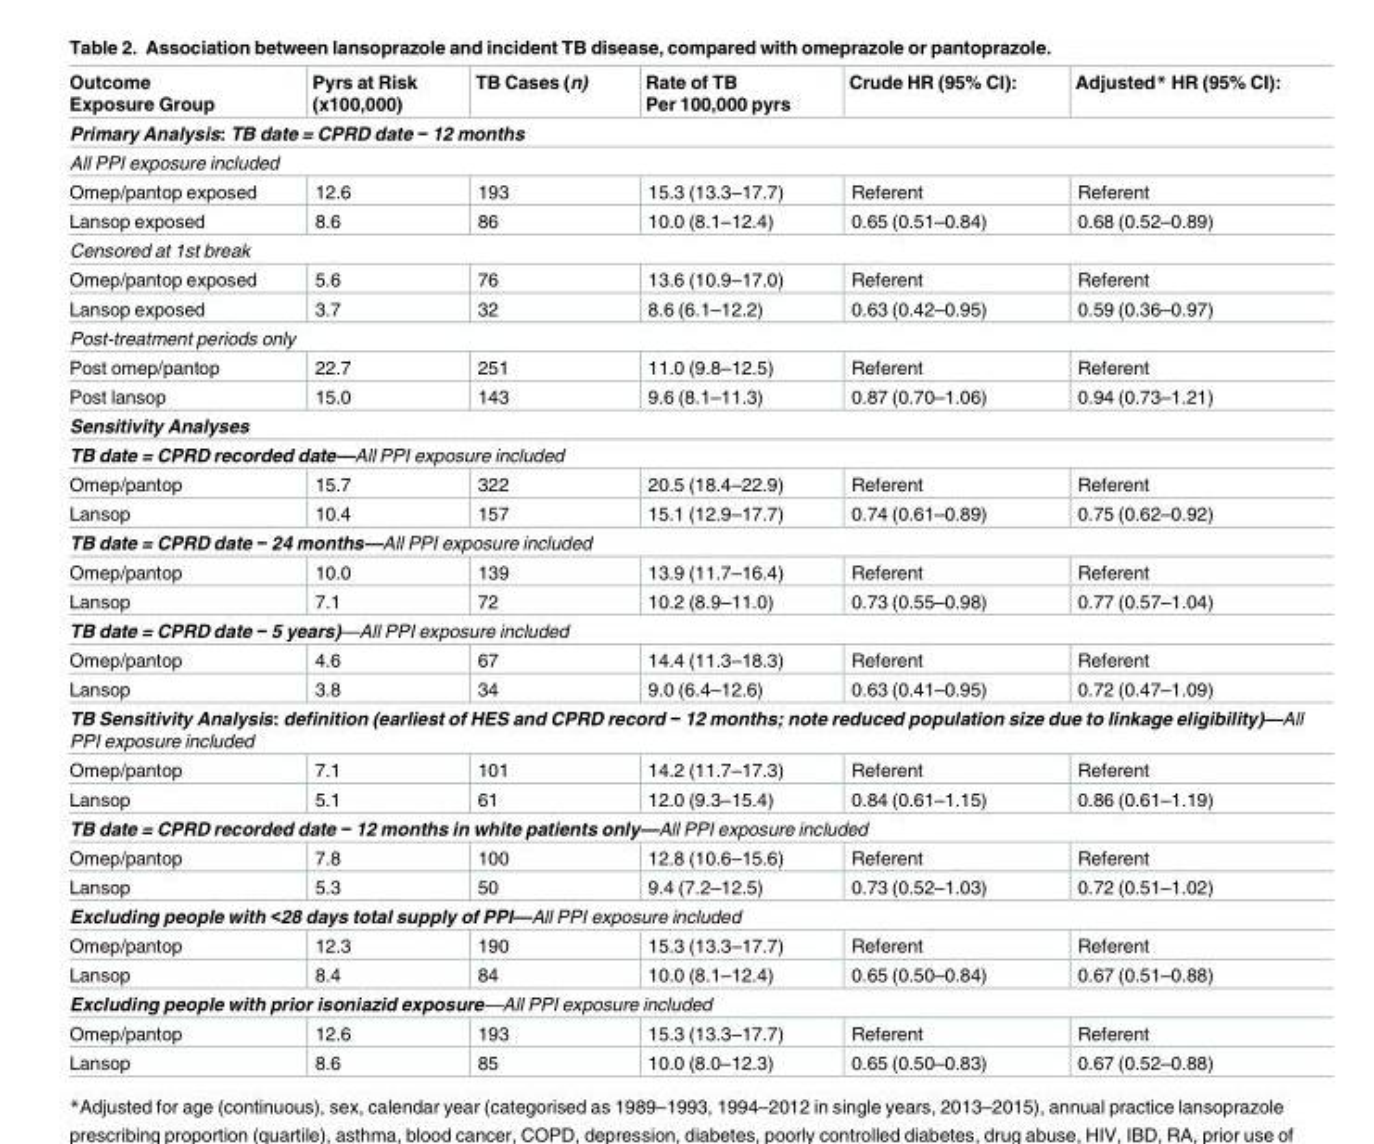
<table><thead><tr><td>Outcome Exposure Group</td><td>Pyrs at Risk (x100,000)</td><td>TB Cases (n)</td><td>Rate of TB Per 100,000 pyrs</td><td>Crude HR (95% CI):</td><td>Adjusted* HR (95% CI):</td></tr></thead><tbody><tr><td colspan="6">Primary Analysis: TB date = CPRD date − 12 months</td></tr><tr><td colspan="6">All PPI exposure included</td></tr><tr><td>Omep/pantop exposed</td><td>12.6</td><td>193</td><td>15.3 (13.3–17.7)</td><td>Referent</td><td>Referent</td></tr><tr><td>Lansop exposed</td><td>8.6</td><td>86</td><td>10.0 (8.1–12.4)</td><td>0.65 (0.51–0.84)</td><td>0.68 (0.52–0.89)</td></tr><tr><td colspan="6">Censored at 1st break</td></tr><tr><td>Omep/pantop exposed</td><td>5.6</td><td>76</td><td>13.6 (10.9–17.0)</td><td>Referent</td><td>Referent</td></tr><tr><td>Lansop exposed</td><td>3.7</td><td>32</td><td>8.6 (6.1–12.2)</td><td>0.63 (0.42–0.95)</td><td>0.59 (0.36–0.97)</td></tr><tr><td colspan="6">Post-treatment periods only</td></tr><tr><td>Post omep/pantop</td><td>22.7</td><td>251</td><td>11.0 (9.8–12.5)</td><td>Referent</td><td>Referent</td></tr><tr><td>Post lansop</td><td>15.0</td><td>143</td><td>9.6 (8.1–11.3)</td><td>0.87 (0.70–1.06)</td><td>0.94 (0.73–1.21)</td></tr><tr><td colspan="6">Sensitivity Analyses</td></tr><tr><td colspan="6">TB date = CPRD recorded date—All PPI exposure included</td></tr><tr><td>Omep/pantop</td><td>15.7</td><td>322</td><td>20.5 (18.4–22.9)</td><td>Referent</td><td>Referent</td></tr><tr><td>Lansop</td><td>10.4</td><td>157</td><td>15.1 (12.9–17.7)</td><td>0.74 (0.61–0.89)</td><td>0.75 (0.62–0.92)</td></tr><tr><td colspan="6">TB date = CPRD date − 24 months—All PPI exposure included</td></tr><tr><td>Omep/pantop</td><td>10.0</td><td>139</td><td>13.9 (11.7–16.4)</td><td>Referent</td><td>Referent</td></tr><tr><td>Lansop</td><td>7.1</td><td>72</td><td>10.2 (8.9–11.0)</td><td>0.73 (0.55–0.98)</td><td>0.77 (0.57–1.04)</td></tr><tr><td colspan="6">TB date = CPRD date − 5 years)—All PPI exposure included</td></tr><tr><td>Omep/pantop</td><td>4.6</td><td>67</td><td>14.4 (11.3–18.3)</td><td>Referent</td><td>Referent</td></tr><tr><td>Lansop</td><td>3.8</td><td>34</td><td>9.0 (6.4–12.6)</td><td>0.63 (0.41–0.95)</td><td>0.72 (0.47–1.09)</td></tr><tr><td colspan="6">TB Sensitivity Analysis: definition (earliest of HES and CPRD record − 12 months; note reduced population size due to linkage eligibility)—All PPI exposure included</td></tr><tr><td>Omep/pantop</td><td>7.1</td><td>101</td><td>14.2 (11.7–17.3)</td><td>Referent</td><td>Referent</td></tr><tr><td>Lansop</td><td>5.1</td><td>61</td><td>12.0 (9.3–15.4)</td><td>0.84 (0.61–1.15)</td><td>0.86 (0.61–1.19)</td></tr><tr><td colspan="6">TB date = CPRD recorded date − 12 months in white patients only—All PPI exposure included</td></tr><tr><td>Omep/pantop</td><td>7.8</td><td>100</td><td>12.8 (10.6–15.6)</td><td>Referent</td><td>Referent</td></tr><tr><td>Lansop</td><td>5.3</td><td>50</td><td>9.4 (7.2–12.5)</td><td>0.73 (0.52–1.03)</td><td>0.72 (0.51–1.02)</td></tr><tr><td colspan="6">Excluding people with &lt;28 days total supply of PPI—All PPI exposure included</td></tr><tr><td>Omep/pantop</td><td>12.3</td><td>190</td><td>15.3 (13.3–17.7)</td><td>Referent</td><td>Referent</td></tr><tr><td>Lansop</td><td>8.4</td><td>84</td><td>10.0 (8.1–12.4)</td><td>0.65 (0.50–0.84)</td><td>0.67 (0.51–0.88)</td></tr><tr><td colspan="6">Excluding people with prior isoniazid exposure—All PPI exposure included</td></tr><tr><td>Omep/pantop</td><td>12.6</td><td>193</td><td>15.3 (13.3–17.7)</td><td>Referent</td><td>Referent</td></tr><tr><td>Lansop</td><td>8.6</td><td>85</td><td>10.0 (8.0–12.3)</td><td>0.65 (0.50–0.83)</td><td>0.67 (0.52–0.88)</td></tr></tbody></table>